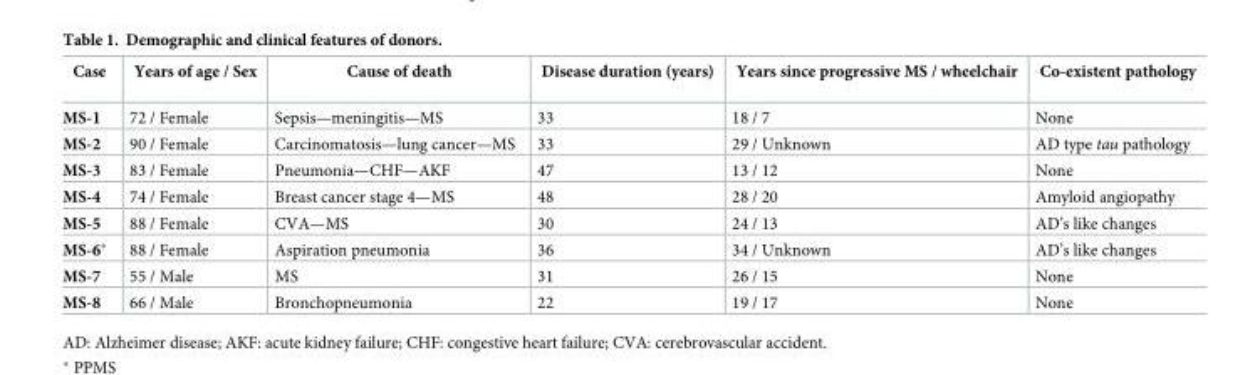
<table><thead><tr><td>Case</td><td>Years of age / Sex</td><td>Cause of death</td><td>Disease duration (years)</td><td>Years since progressive MS / wheelchair</td><td>Co-existent pathology</td></tr></thead><tbody><tr><td>MS-1</td><td>72 / Female</td><td>Sepsis—meningitis—MS</td><td>33</td><td>18 / 7</td><td>None</td></tr><tr><td>MS-2</td><td>90 / Female</td><td>Carcinomatosis—lung cancer—MS</td><td>33</td><td>29 / Unknown</td><td>AD type tau pathology</td></tr><tr><td>MS-3</td><td>83 / Female</td><td>Pneumonia—CHF—AKF</td><td>47</td><td>13 / 12</td><td>None</td></tr><tr><td>MS-4</td><td>74 / Female</td><td>Breast cancer stage 4—MS</td><td>48</td><td>28 / 20</td><td>Amyloid angiopathy</td></tr><tr><td>MS-5</td><td>88 / Female</td><td>CVA—MS</td><td>30</td><td>24 / 13</td><td>AD’s like changes</td></tr><tr><td>MS-6*</td><td>88 / Female</td><td>Aspiration pneumonia</td><td>36</td><td>34 / Unknown</td><td>AD’s like changes</td></tr><tr><td>MS-7</td><td>55 / Male</td><td>MS</td><td>31</td><td>26 / 15</td><td>None</td></tr><tr><td>MS-8</td><td>66 / Male</td><td>Bronchopneumonia</td><td>22</td><td>19 / 17</td><td>None</td></tr></tbody></table>